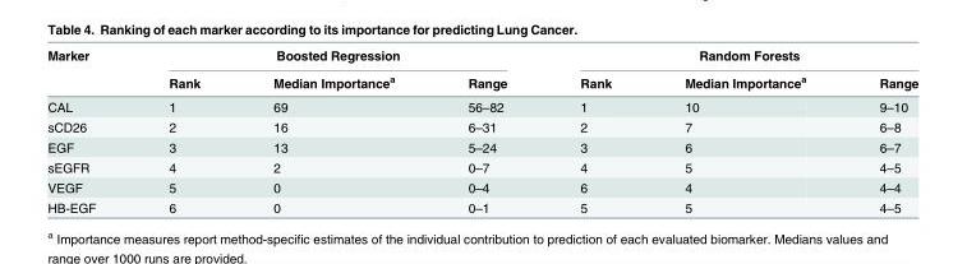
<table><thead><tr><td rowspan="2">Marker</td><td colspan="3">Boosted Regression</td><td colspan="3">Random Forests</td></tr><tr><td>Rank</td><td>Median Importance<sup>a</sup></td><td>Range</td><td>Rank</td><td>Median Importance<sup>a</sup></td><td>Range</td></tr></thead><tbody><tr><td>CAL</td><td>1</td><td>69</td><td>56–82</td><td>1</td><td>10</td><td>9–10</td></tr><tr><td>sCD26</td><td>2</td><td>16</td><td>6–31</td><td>2</td><td>7</td><td>6–8</td></tr><tr><td>EGF</td><td>3</td><td>13</td><td>5–24</td><td>3</td><td>6</td><td>6–7</td></tr><tr><td>sEGFR</td><td>4</td><td>2</td><td>0–7</td><td>4</td><td>5</td><td>4–5</td></tr><tr><td>VEGF</td><td>5</td><td>0</td><td>0–4</td><td>6</td><td>4</td><td>4–4</td></tr><tr><td>HB-EGF</td><td>6</td><td>0</td><td>0–1</td><td>5</td><td>5</td><td>4–5</td></tr></tbody></table>